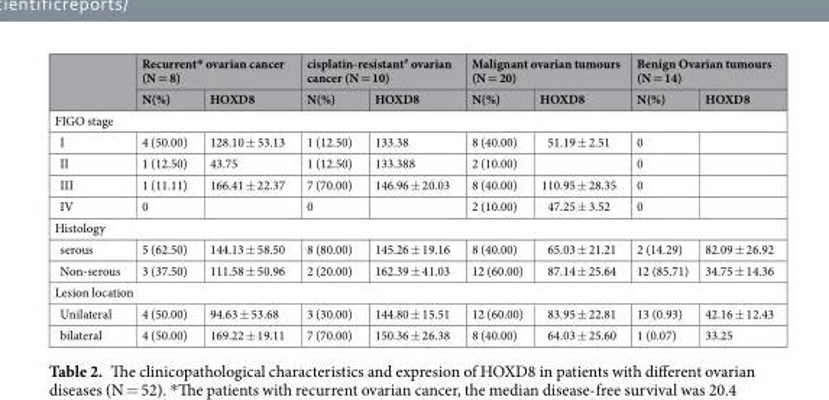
<table><thead><tr><td rowspan="2"></td><td colspan="2">Recurrent* ovarian cancer (N = 8)</td><td colspan="2">cisplatin-resistant<sup>#</sup> ovarian cancer (N = 10)</td><td colspan="2">Malignant ovarian tumours (N = 20)</td><td colspan="2">Benign Ovarian tumours (N = 14)</td></tr><tr><td>N(%)</td><td>HOXD8</td><td>N(%)</td><td>HOXD8</td><td>N(%)</td><td>HOXD8</td><td>N(%)</td><td>HOXD8</td></tr></thead><tbody><tr><td colspan="9">FIGO stage</td></tr><tr><td>I</td><td>4 (50.00)</td><td>128.10 ± 53.13</td><td>1 (12.50)</td><td>133.38</td><td>8 (40.00)</td><td>51.19 ± 2.51</td><td>0</td><td></td></tr><tr><td>II</td><td>1 (12.50)</td><td>43.75</td><td>1 (12.50)</td><td>133.388</td><td>2 (10.00)</td><td></td><td>0</td><td></td></tr><tr><td>III</td><td>1 (11.11)</td><td>166.41 ± 22.37</td><td>7 (70.00)</td><td>146.96 ± 20.03</td><td>8 (40.00)</td><td>110.95 ± 28.35</td><td>0</td><td></td></tr><tr><td>IV</td><td>0</td><td></td><td>0</td><td></td><td>2 (10.00)</td><td>47.25 ± 3.52</td><td>0</td><td></td></tr><tr><td colspan="9">Histology</td></tr><tr><td>serous</td><td>5 (62.50)</td><td>144.13 ± 58.50</td><td>8 (80.00)</td><td>145.26 ± 19.16</td><td>8 (40.00)</td><td>65.03 ± 21.21</td><td>2 (14.29)</td><td>82.09 ± 26.92</td></tr><tr><td>Non-serous</td><td>3 (37.50)</td><td>111.58 ± 50.96</td><td>2 (20.00)</td><td>162.39 ± 41.03</td><td>12 (60.00)</td><td>87.14 ± 25.64</td><td>12 (85.71)</td><td>34.75 ± 14.36</td></tr><tr><td colspan="9">Lesion location</td></tr><tr><td>Unilateral</td><td>4 (50.00)</td><td>94.63 ± 53.68</td><td>3 (30.00)</td><td>144.80 ± 15.51</td><td>12 (60.00)</td><td>83.95 ± 22.81</td><td>13 (0.93)</td><td>42.16 ± 12.43</td></tr><tr><td>bilateral</td><td>4 (50.00)</td><td>169.22 ± 19.11</td><td>7 (70.00)</td><td>150.36 ± 26.38</td><td>8 (40.00)</td><td>64.03 ± 25.60</td><td>1 (0.07)</td><td>33.25</td></tr></tbody></table>